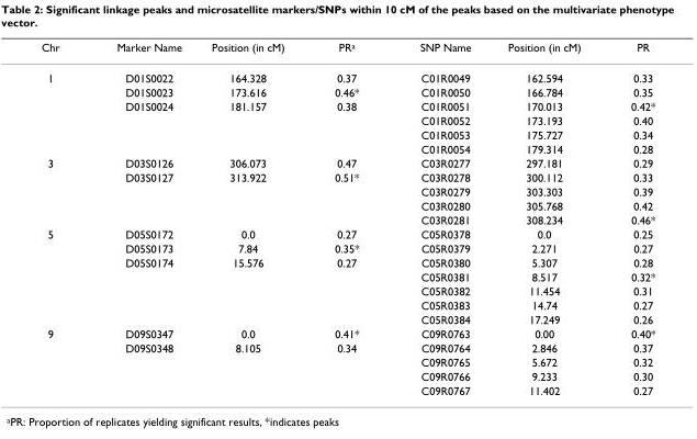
<table><thead><tr><td>Chr</td><td>Marker Name</td><td>Position (in cM)</td><td>PRa</td><td>SNP Name</td><td>Position (in cM)</td><td>PR</td></tr></thead><tbody><tr><td rowspan="6">1</td><td>D01S0022</td><td>164.328</td><td>0.37</td><td>C01R0049</td><td>162.594</td><td>0.33</td></tr><tr><td>D01S0023</td><td>173.616</td><td>0.46*</td><td>C01R0050</td><td>166.784</td><td>0.35</td></tr><tr><td>D01S0024</td><td>181.157</td><td>0.38</td><td>C01R0051</td><td>170.013</td><td>0.42*</td></tr><tr><td></td><td></td><td></td><td>C01R0052</td><td>173.193</td><td>0.40</td></tr><tr><td></td><td></td><td></td><td>C01R0053</td><td>175.727</td><td>0.34</td></tr><tr><td></td><td></td><td></td><td>C01R0054</td><td>179.314</td><td>0.28</td></tr><tr><td rowspan="5">3</td><td>D03S0126</td><td>306.073</td><td>0.47</td><td>C03R0277</td><td>297.181</td><td>0.29</td></tr><tr><td>D03S0127</td><td>313.922</td><td>0.51*</td><td>C03R0278</td><td>300.112</td><td>0.33</td></tr><tr><td></td><td></td><td></td><td>C03R0279</td><td>303.303</td><td>0.39</td></tr><tr><td></td><td></td><td></td><td>C03R0280</td><td>305.768</td><td>0.42</td></tr><tr><td></td><td></td><td></td><td>C03R0281</td><td>308.234</td><td>0.46*</td></tr><tr><td rowspan="7">5</td><td>D05S0172</td><td>0.0</td><td>0.27</td><td>C05R0378</td><td>0.0</td><td>0.25</td></tr><tr><td>D05S0173</td><td>7.84</td><td>0.35*</td><td>C05R0379</td><td>2.271</td><td>0.27</td></tr><tr><td>D05S0174</td><td>15.576</td><td>0.27</td><td>C05R0380</td><td>5.307</td><td>0.28</td></tr><tr><td></td><td></td><td></td><td>C05R0381</td><td>8.517</td><td>0.32*</td></tr><tr><td></td><td></td><td></td><td>C05R0382</td><td>11.454</td><td>0.31</td></tr><tr><td></td><td></td><td></td><td>C05R0383</td><td>14.74</td><td>0.27</td></tr><tr><td></td><td></td><td></td><td>C05R0384</td><td>17.249</td><td>0.26</td></tr><tr><td rowspan="5">9</td><td>D09S0347</td><td>0.0</td><td>0.41*</td><td>C09R0763</td><td>0.00</td><td>0.40*</td></tr><tr><td>D09S0348</td><td>8.105</td><td>0.34</td><td>C09R0764</td><td>2.846</td><td>0.37</td></tr><tr><td></td><td></td><td></td><td>C09R0765</td><td>5.672</td><td>0.32</td></tr><tr><td></td><td></td><td></td><td>C09R0766</td><td>9.233</td><td>0.30</td></tr><tr><td></td><td></td><td></td><td>C09R0767</td><td>11.402</td><td>0.27</td></tr></tbody></table>